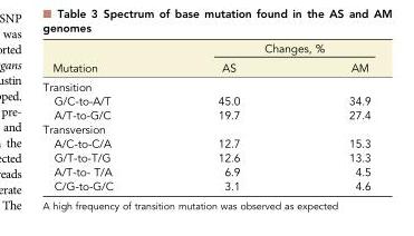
<table><thead><tr><td rowspan="2">Mutation</td><td colspan="2">Changes, %</td></tr><tr><td>AS</td><td>AM</td></tr></thead><tbody><tr><td colspan="3">Transition</td></tr><tr><td>G/C-to-A/T</td><td>45.0</td><td>34.9</td></tr><tr><td>A/T-to-G/C</td><td>19.7</td><td>27.4</td></tr><tr><td colspan="3">Transversion</td></tr><tr><td>A/C-to-C/A</td><td>12.7</td><td>15.3</td></tr><tr><td>G/T-to-T/G</td><td>12.6</td><td>13.3</td></tr><tr><td>A/T-to- T/A</td><td>6.9</td><td>4.5</td></tr><tr><td>C/G-to-G/C</td><td>3.1</td><td>4.6</td></tr></tbody></table>